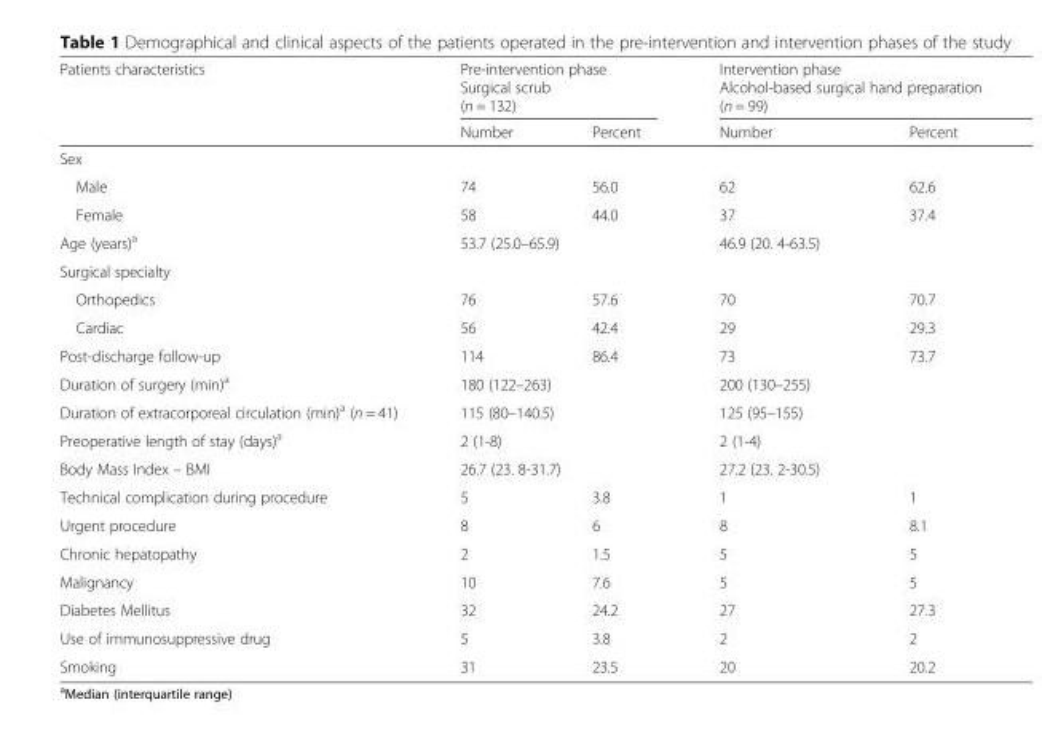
<table><thead><tr><td rowspan="3">Patients characteristics</td><td rowspan="2" colspan="2">Pre-intervention phase Surgical scrub (n = 132)</td><td rowspan="2" colspan="2">Intervention phase Alcohol-based surgical hand preparation (n = 99)</td></tr><tr></tr><tr><td>Number</td><td>Percent</td><td>Number</td><td>Percent</td></tr></thead><tbody><tr><td colspan="5">Sex</td></tr><tr><td>Male</td><td>74</td><td>56.0</td><td>62</td><td>62.6</td></tr><tr><td>Female</td><td>58</td><td>44.0</td><td>37</td><td>37.4</td></tr><tr><td>Age (years)<sup>a</sup></td><td colspan="2">53.7 (25.0–65.9)</td><td colspan="2">46.9 (20. 4-63.5)</td></tr><tr><td colspan="5">Surgical specialty</td></tr><tr><td>Orthopedics</td><td>76</td><td>57.6</td><td>70</td><td>70.7</td></tr><tr><td>Cardiac</td><td>56</td><td>42.4</td><td>29</td><td>29.3</td></tr><tr><td>Post-discharge follow-up</td><td>114</td><td>86.4</td><td>73</td><td>73.7</td></tr><tr><td>Duration of surgery (min)<sup>a</sup></td><td colspan="2">180 (122–263)</td><td colspan="2">200 (130–255)</td></tr><tr><td>Duration of extracorporeal circulation (min)<sup>a</sup> (n = 41)</td><td colspan="2">115 (80–140.5)</td><td colspan="2">125 (95–155)</td></tr><tr><td>Preoperative length of stay (days)<sup>a</sup></td><td colspan="2">2 (1-8)</td><td colspan="2">2 (1-4)</td></tr><tr><td>Body Mass Index – BMI</td><td colspan="2">26.7 (23. 8-31.7)</td><td colspan="2">27.2 (23. 2-30.5)</td></tr><tr><td>Technical complication during procedure</td><td>5</td><td>3.8</td><td>1</td><td>1</td></tr><tr><td>Urgent procedure</td><td>8</td><td>6</td><td>8</td><td>8.1</td></tr><tr><td>Chronic hepatopathy</td><td>2</td><td>1.5</td><td>5</td><td>5</td></tr><tr><td>Malignancy</td><td>10</td><td>7.6</td><td>5</td><td>5</td></tr><tr><td>Diabetes Mellitus</td><td>32</td><td>24.2</td><td>27</td><td>27.3</td></tr><tr><td>Use of immunosuppressive drug</td><td>5</td><td>3.8</td><td>2</td><td>2</td></tr><tr><td>Smoking</td><td>31</td><td>23.5</td><td>20</td><td>20.2</td></tr></tbody></table>